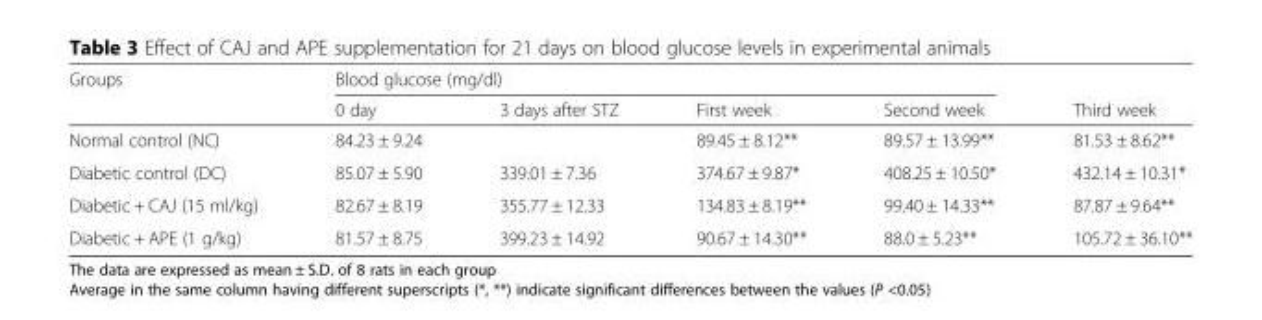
<table><thead><tr><td rowspan="2">Groups</td><td colspan="4">Blood glucose (mg/dl)</td><td rowspan="2">Third week</td></tr><tr><td>0 day</td><td>3 days after STZ</td><td>First week</td><td>Second week</td></tr></thead><tbody><tr><td>Normal control (NC)</td><td>84.23 ± 9.24</td><td></td><td>89.45 ± 8.12**</td><td>89.57 ± 13.99**</td><td>81.53 ± 8.62**</td></tr><tr><td>Diabetic control (DC)</td><td>85.07 ± 5.90</td><td>339.01 ± 7.36</td><td>374.67 ± 9.87*</td><td>408.25 ± 10.50*</td><td>432.14 ± 10.31*</td></tr><tr><td>Diabetic + CAJ (15 ml/kg)</td><td>82.67 ± 8.19</td><td>355.77 ± 12.33</td><td>134.83 ± 8.19**</td><td>99.40 ± 14.33**</td><td>87.87 ± 9.64**</td></tr><tr><td>Diabetic + APE (1 g/kg)</td><td>81.57 ± 8.75</td><td>399.23 ± 14.92</td><td>90.67 ± 14.30**</td><td>88.0 ± 5.23**</td><td>105.72 ± 36.10**</td></tr></tbody></table>